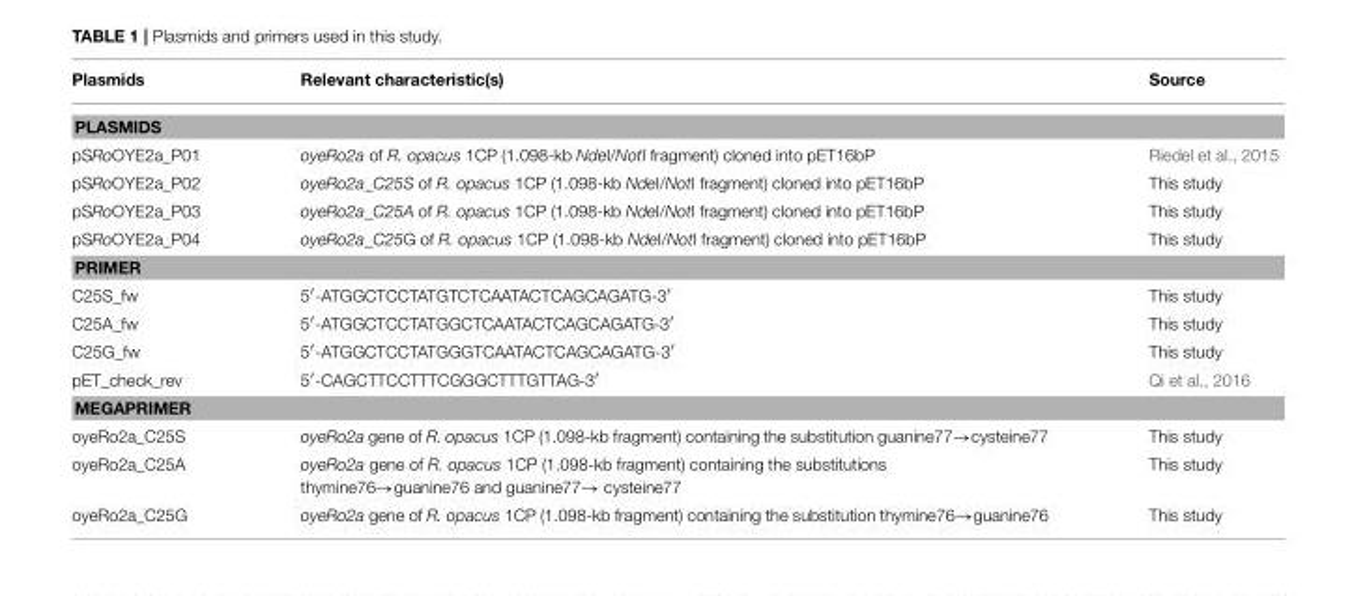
<table><thead><tr><td>Plasmids</td><td>Relevant characteristic(s)</td><td>Source</td></tr></thead><tbody><tr><td colspan="3">PLASMIDS</td></tr><tr><td>pSRoOYE2a_P01</td><td>oyeRo2a of R. opacus 1CP (1.098-kb NdeI/NotI fragment) cloned into pET16bP</td><td>Riedel et al., 2015</td></tr><tr><td>pSRoOYE2a_P02</td><td>oyeRo2a_C25S of R. opacus 1CP (1.098-kb NdeI/NotI fragment) cloned into pET16bP</td><td>This study</td></tr><tr><td>pSRoOYE2a_P03</td><td>oyeRo2a_C25A of R. opacus 1CP (1.098-kb NdeI/NotI fragment) cloned into pET16bP</td><td>This study</td></tr><tr><td>pSRoOYE2a_P04</td><td>oyeRo2a_C25G of R. opacus 1CP (1.098-kb NdeI/NotI fragment) cloned into pET16bP</td><td>This study</td></tr><tr><td colspan="3">PRIMER</td></tr><tr><td>C25S_fw</td><td>5′-ATGGCTCCTATGTCTCAATACTCAGCAGATG-3′</td><td>This study</td></tr><tr><td>C25A_fw</td><td>5′-ATGGCTCCTATGGCTCAATACTCAGCAGATG-3′</td><td>This study</td></tr><tr><td>C25G_fw</td><td>5′-ATGGCTCCTATGGGTCAATACTCAGCAGATG-3′</td><td>This study</td></tr><tr><td>pET_check_rev</td><td>5′-CAGCTTCCTTTCGGGCTTTGTTAG-3′</td><td>Qi et al., 2016</td></tr><tr><td colspan="3">MEGAPRIMER</td></tr><tr><td>oyeRo2a_C25S</td><td>oyeRo2a gene of R. opacus 1CP (1.098-kb fragment) containing the substitution guanine77→cysteine77</td><td>This study</td></tr><tr><td>oyeRo2a_C25A</td><td>oyeRo2a gene of R. opacus 1CP (1.098-kb fragment) containing the substitutions thymine76→guanine76 and guanine77→ cysteine77</td><td>This study</td></tr><tr><td>oyeRo2a_C25G</td><td>oyeRo2a gene of R. opacus 1CP (1.098-kb fragment) containing the substitution thymine76→guanine76</td><td>This study</td></tr></tbody></table>